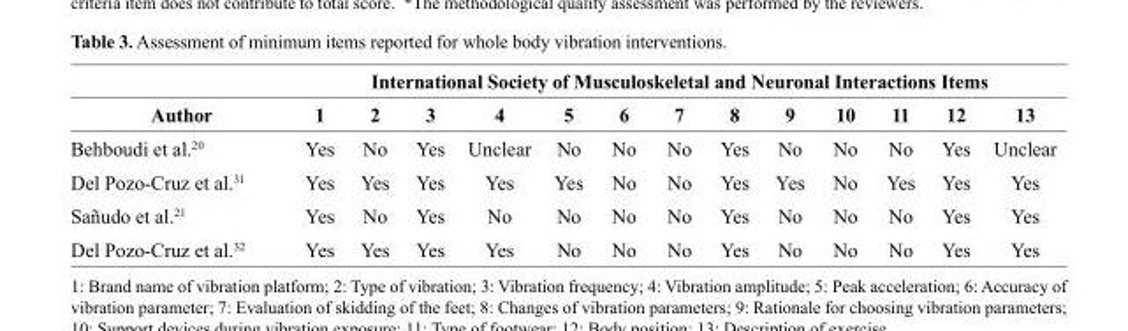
<table><thead><tr><td rowspan="2">Author</td><td colspan="13">International Society of Musculoskeletal and Neuronal Interactions Items</td></tr><tr><td>1</td><td>2</td><td>3</td><td>4</td><td>5</td><td>6</td><td>7</td><td>8</td><td>9</td><td>10</td><td>11</td><td>12</td><td>13</td></tr></thead><tbody><tr><td>Behboudi et al.<sup>20</sup></td><td>Yes</td><td>No</td><td>Yes</td><td>Unclear</td><td>No</td><td>No</td><td>No</td><td>Yes</td><td>No</td><td>No</td><td>No</td><td>Yes</td><td>Unclear</td></tr><tr><td>Del Pozo-Cruz et al.<sup>31</sup></td><td>Yes</td><td>Yes</td><td>Yes</td><td>Yes</td><td>Yes</td><td>No</td><td>No</td><td>Yes</td><td>Yes</td><td>No</td><td>Yes</td><td>Yes</td><td>Yes</td></tr><tr><td>Sañudo et al.<sup>21</sup></td><td>Yes</td><td>No</td><td>Yes</td><td>No</td><td>No</td><td>No</td><td>No</td><td>Yes</td><td>No</td><td>No</td><td>No</td><td>Yes</td><td>Yes</td></tr><tr><td>Del Pozo-Cruz et al.<sup>32</sup></td><td>Yes</td><td>Yes</td><td>Yes</td><td>Yes</td><td>No</td><td>No</td><td>No</td><td>Yes</td><td>No</td><td>No</td><td>No</td><td>Yes</td><td>Yes</td></tr></tbody></table>